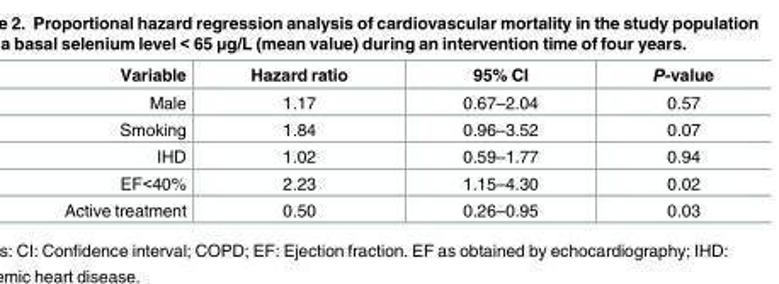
<table><thead><tr><td>Variable</td><td>Hazard ratio</td><td>95% CI</td><td>P-value</td></tr></thead><tbody><tr><td>Male</td><td>1.17</td><td>0.67–2.04</td><td>0.57</td></tr><tr><td>Smoking</td><td>1.84</td><td>0.96–3.52</td><td>0.07</td></tr><tr><td>IHD</td><td>1.02</td><td>0.59–1.77</td><td>0.94</td></tr><tr><td>EF&lt;40%</td><td>2.23</td><td>1.15–4.30</td><td>0.02</td></tr><tr><td>Active treatment</td><td>0.50</td><td>0.26–0.95</td><td>0.03</td></tr></tbody></table>